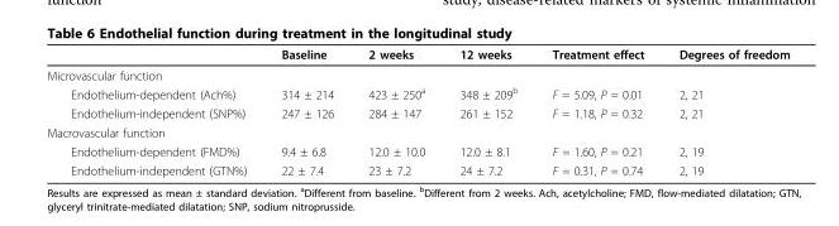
<table><thead><tr><td></td><td>Baseline</td><td>2 weeks</td><td>12 weeks</td><td>Treatment effect</td><td>Degrees of freedom</td></tr></thead><tbody><tr><td colspan="6">Microvascular function</td></tr><tr><td>Endothelium-dependent (Ach%)</td><td>314 ± 214</td><td>423 ± 250<sup>a</sup></td><td>348 ± 209<sup>b</sup></td><td>F = 5.09, P = 0.01</td><td>2, 21</td></tr><tr><td>Endothelium-independent (SNP%)</td><td>247 ± 126</td><td>284 ± 147</td><td>261 ± 152</td><td>F = 1.18, P = 0.32</td><td>2, 21</td></tr><tr><td colspan="6">Macrovascular function</td></tr><tr><td>Endothelium-dependent (FMD%)</td><td>9.4 ± 6.8</td><td>12.0 ± 10.0</td><td>12.0 ± 8.1</td><td>F = 1.60, P = 0.21</td><td>2, 19</td></tr><tr><td>Endothelium-independent (GTN%)</td><td>22 ± 7.4</td><td>23 ± 7.2</td><td>24 ± 7.2</td><td>F = 0.31, P = 0.74</td><td>2, 19</td></tr></tbody></table>